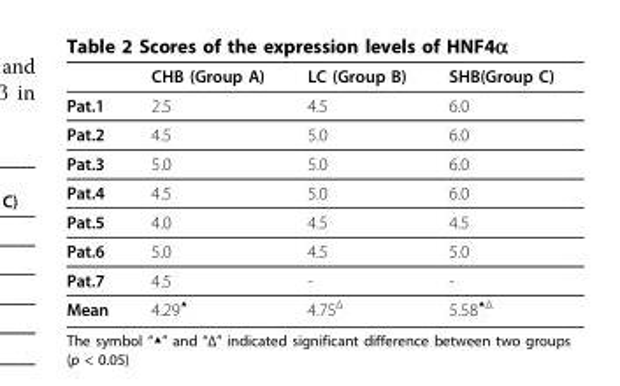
<table><thead><tr><td></td><td>CHB (Group A)</td><td>LC (Group B)</td><td>SHB(Group C)</td></tr></thead><tbody><tr><td>Pat.1</td><td>2.5</td><td>4.5</td><td>6.0</td></tr><tr><td>Pat.2</td><td>4.5</td><td>5.0</td><td>6.0</td></tr><tr><td>Pat.3</td><td>5.0</td><td>5.0</td><td>6.0</td></tr><tr><td>Pat.4</td><td>4.5</td><td>5.0</td><td>6.0</td></tr><tr><td>Pat.5</td><td>4.0</td><td>4.5</td><td>4.5</td></tr><tr><td>Pat.6</td><td>5.0</td><td>4.5</td><td>5.0</td></tr><tr><td>Pat.7</td><td>4.5</td><td>-</td><td>-</td></tr><tr><td>Mean</td><td>4.29<sup>▲</sup></td><td>4.75<sup>Δ</sup></td><td>5.58<sup>▲Δ</sup></td></tr></tbody></table>